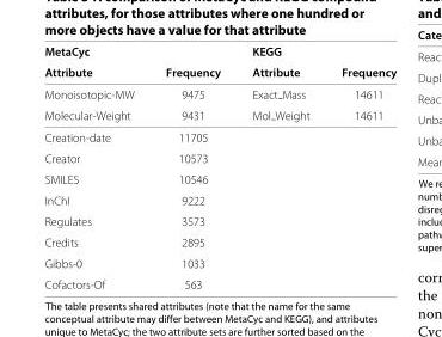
<table><thead><tr><td rowspan="2">MetaCyc Attribute</td><td rowspan="2">Frequency</td><td rowspan="2">KEGG Attribute</td><td rowspan="2">Frequency</td></tr><tr></tr></thead><tbody><tr><td>Monoisotopic-MW</td><td>9475</td><td>Exact Mass</td><td>14611</td></tr><tr><td>Molecular-Weight</td><td>9431</td><td>Mol Weight</td><td>14611</td></tr><tr><td>Creation-date</td><td>11705</td><td></td><td></td></tr><tr><td>Creator</td><td>10573</td><td></td><td></td></tr><tr><td>SMILES</td><td>10546</td><td></td><td></td></tr><tr><td>InChI</td><td>9222</td><td></td><td></td></tr><tr><td>Regulates</td><td>3573</td><td></td><td></td></tr><tr><td>Credits</td><td>2895</td><td></td><td></td></tr><tr><td>Gibbs-0</td><td>1033</td><td></td><td></td></tr><tr><td>Cofactors-Of</td><td>563</td><td></td><td></td></tr></tbody></table>